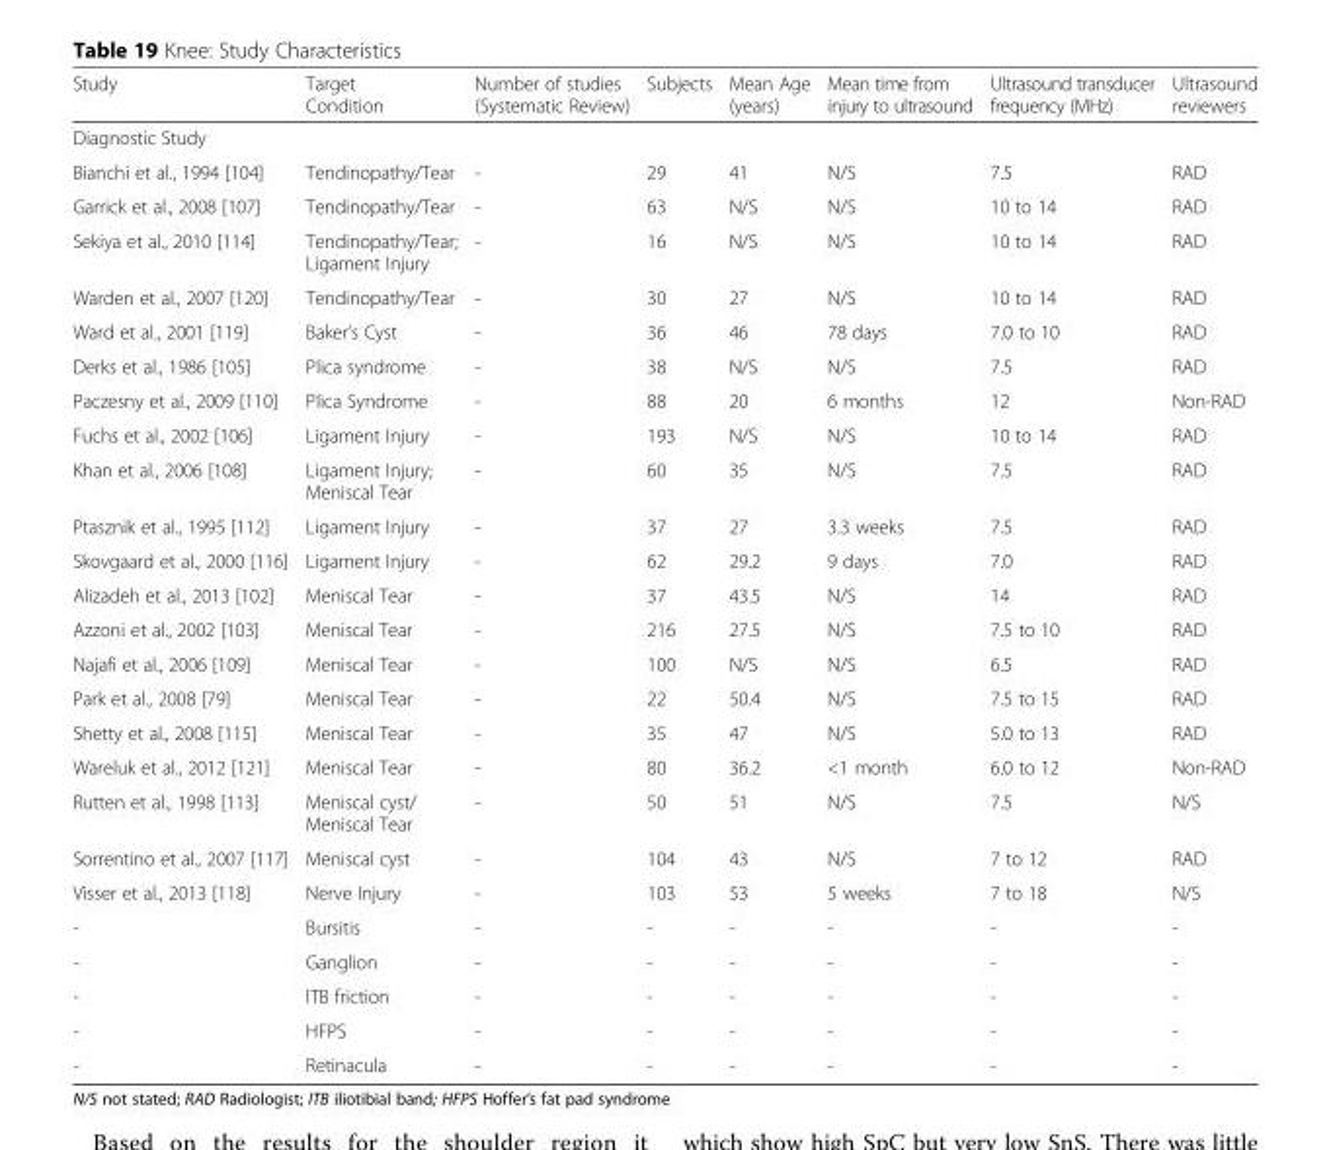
<table><thead><tr><td>Study</td><td>Target Condition</td><td>Number of studies (Systematic Review)</td><td>Subjects</td><td>Mean Age (years)</td><td>Mean time from injury to ultrasound</td><td>Ultrasound transducer frequency (MHz)</td><td>Ultrasound reviewers</td></tr></thead><tbody><tr><td colspan="8">Diagnostic Study</td></tr><tr><td>Bianchi et al., 1994 [104]</td><td>Tendinopathy/Tear</td><td>-</td><td>29</td><td>41</td><td>N/S</td><td>7.5</td><td>RAD</td></tr><tr><td>Garrick et al., 2008 [107]</td><td>Tendinopathy/Tear</td><td>-</td><td>63</td><td>N/S</td><td>N/S</td><td>10 to 14</td><td>RAD</td></tr><tr><td>Sekiya et al., 2010 [114]</td><td>Tendinopathy/Tear; Ligament Injury</td><td>-</td><td>16</td><td>N/S</td><td>N/S</td><td>10 to 14</td><td>RAD</td></tr><tr><td>Warden et al., 2007 [120]</td><td>Tendinopathy/Tear</td><td>-</td><td>30</td><td>27</td><td>N/S</td><td>10 to 14</td><td>RAD</td></tr><tr><td>Ward et al., 2001 [119]</td><td>Baker’s Cyst</td><td>-</td><td>36</td><td>46</td><td>78 days</td><td>7.0 to 10</td><td>RAD</td></tr><tr><td>Derks et al., 1986 [105]</td><td>Plica syndrome</td><td>-</td><td>38</td><td>N/S</td><td>N/S</td><td>7.5</td><td>RAD</td></tr><tr><td>Paczesny et al., 2009 [110]</td><td>Plica Syndrome</td><td>-</td><td>88</td><td>20</td><td>6 months</td><td>12</td><td>Non-RAD</td></tr><tr><td>Fuchs et al., 2002 [106]</td><td>Ligament Injury</td><td>-</td><td>193</td><td>N/S</td><td>N/S</td><td>10 to 14</td><td>RAD</td></tr><tr><td>Khan et al., 2006 [108]</td><td>Ligament Injury; Meniscal Tear</td><td>-</td><td>60</td><td>35</td><td>N/S</td><td>7.5</td><td>RAD</td></tr><tr><td>Ptasznik et al., 1995 [112]</td><td>Ligament Injury</td><td>-</td><td>37</td><td>27</td><td>3.3 weeks</td><td>7.5</td><td>RAD</td></tr><tr><td>Skovgaard et al., 2000 [116]</td><td>Ligament Injury</td><td>-</td><td>62</td><td>29.2</td><td>9 days</td><td>7.0</td><td>RAD</td></tr><tr><td>Alizadeh et al., 2013 [102]</td><td>Meniscal Tear</td><td>-</td><td>37</td><td>43.5</td><td>N/S</td><td>14</td><td>RAD</td></tr><tr><td>Azzoni et al., 2002 [103]</td><td>Meniscal Tear</td><td>-</td><td>216</td><td>27.5</td><td>N/S</td><td>7.5 to 10</td><td>RAD</td></tr><tr><td>Najafi et al., 2006 [109]</td><td>Meniscal Tear</td><td>-</td><td>100</td><td>N/S</td><td>N/S</td><td>6.5</td><td>RAD</td></tr><tr><td>Park et al., 2008 [79]</td><td>Meniscal Tear</td><td>-</td><td>22</td><td>50.4</td><td>N/S</td><td>7.5 to 15</td><td>RAD</td></tr><tr><td>Shetty et al., 2008 [115]</td><td>Meniscal Tear</td><td>-</td><td>35</td><td>47</td><td>N/S</td><td>5.0 to 13</td><td>RAD</td></tr><tr><td>Wareluk et al., 2012 [121]</td><td>Meniscal Tear</td><td>-</td><td>80</td><td>36.2</td><td>&lt;1 month</td><td>6.0 to 12</td><td>Non-RAD</td></tr><tr><td>Rutten et al., 1998 [113]</td><td>Meniscal cyst/ Meniscal Tear</td><td>-</td><td>50</td><td>51</td><td>N/S</td><td>7.5</td><td>N/S</td></tr><tr><td>Sorrentino et al., 2007 [117]</td><td>Meniscal cyst</td><td>-</td><td>104</td><td>43</td><td>N/S</td><td>7 to 12</td><td>RAD</td></tr><tr><td>Visser et al., 2013 [118]</td><td>Nerve Injury</td><td>-</td><td>103</td><td>53</td><td>5 weeks</td><td>7 to 18</td><td>N/S</td></tr><tr><td>-</td><td>Bursitis</td><td>-</td><td>-</td><td>-</td><td>-</td><td>-</td><td>-</td></tr><tr><td>-</td><td>Ganglion</td><td>-</td><td>-</td><td>-</td><td>-</td><td>-</td><td>-</td></tr><tr><td>-</td><td>ITB friction</td><td>-</td><td>-</td><td>-</td><td>-</td><td>-</td><td>-</td></tr><tr><td>-</td><td>HFPS</td><td>-</td><td>-</td><td>-</td><td>-</td><td>-</td><td>-</td></tr><tr><td>-</td><td>Retinacula</td><td>-</td><td>-</td><td>-</td><td>-</td><td>-</td><td>-</td></tr></tbody></table>